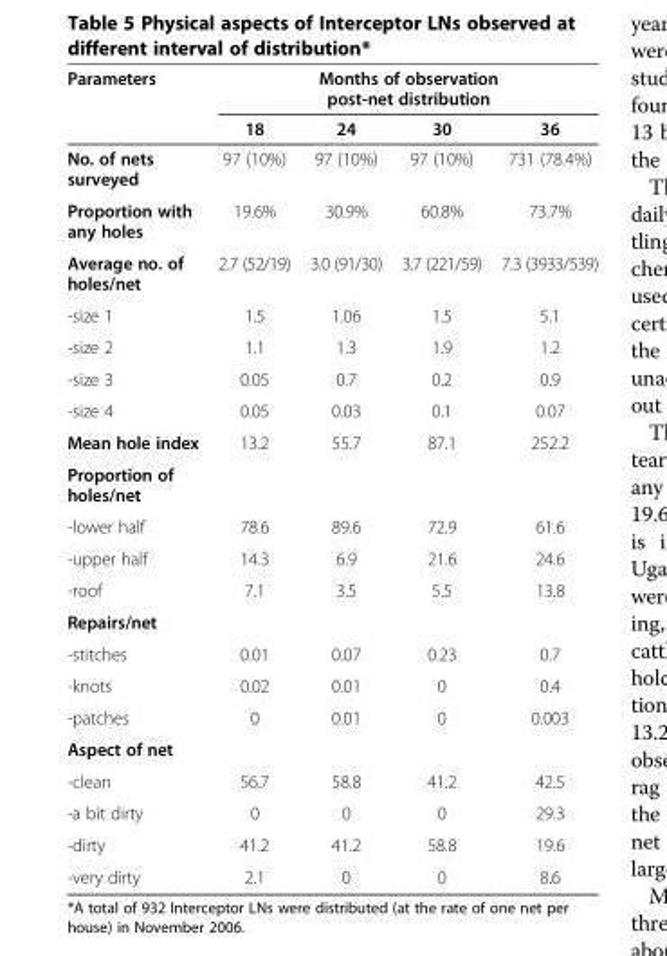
<table><thead><tr><td rowspan="2">Parameters</td><td colspan="4">Months of observation post-net distribution</td></tr><tr><td>18</td><td>24</td><td>30</td><td>36</td></tr></thead><tbody><tr><td>No. of nets surveyed</td><td>97 (10%)</td><td>97 (10%)</td><td>97 (10%)</td><td>731 (78.4%)</td></tr><tr><td>Proportion with any holes</td><td>19.6%</td><td>30.9%</td><td>60.8%</td><td>73.7%</td></tr><tr><td>Average no. of holes/net</td><td>2.7 (52/19)</td><td>3.0 (91/30)</td><td>3.7 (221/59)</td><td>7.3 (3933/539)</td></tr><tr><td>-size 1</td><td>1.5</td><td>1.06</td><td>1.5</td><td>5.1</td></tr><tr><td>-size 2</td><td>1.1</td><td>1.3</td><td>1.9</td><td>1.2</td></tr><tr><td>-size 3</td><td>0.05</td><td>0.7</td><td>0.2</td><td>0.9</td></tr><tr><td>-size 4</td><td>0.05</td><td>0.03</td><td>0.1</td><td>0.07</td></tr><tr><td>Mean hole index</td><td>13.2</td><td>55.7</td><td>87.1</td><td>252.2</td></tr><tr><td colspan="5">Proportion of holes/net</td></tr><tr><td>-lower half</td><td>78.6</td><td>89.6</td><td>72.9</td><td>61.6</td></tr><tr><td>-upper half</td><td>14.3</td><td>6.9</td><td>21.6</td><td>24.6</td></tr><tr><td>-roof</td><td>7.1</td><td>3.5</td><td>5.5</td><td>13.8</td></tr><tr><td colspan="5">Repairs/net</td></tr><tr><td>-stitches</td><td>0.01</td><td>0.07</td><td>0.23</td><td>0.7</td></tr><tr><td>-knots</td><td>0.02</td><td>0.01</td><td>0</td><td>0.4</td></tr><tr><td>-patches</td><td>0</td><td>0.01</td><td>0</td><td>0.003</td></tr><tr><td colspan="5">Aspect of net</td></tr><tr><td>-clean</td><td>56.7</td><td>58.8</td><td>41.2</td><td>42.5</td></tr><tr><td>-a bit dirty</td><td>0</td><td>0</td><td>0</td><td>29.3</td></tr><tr><td>-dirty</td><td>41.2</td><td>41.2</td><td>58.8</td><td>19.6</td></tr><tr><td>-very dirty</td><td>2.1</td><td>0</td><td>0</td><td>8.6</td></tr></tbody></table>